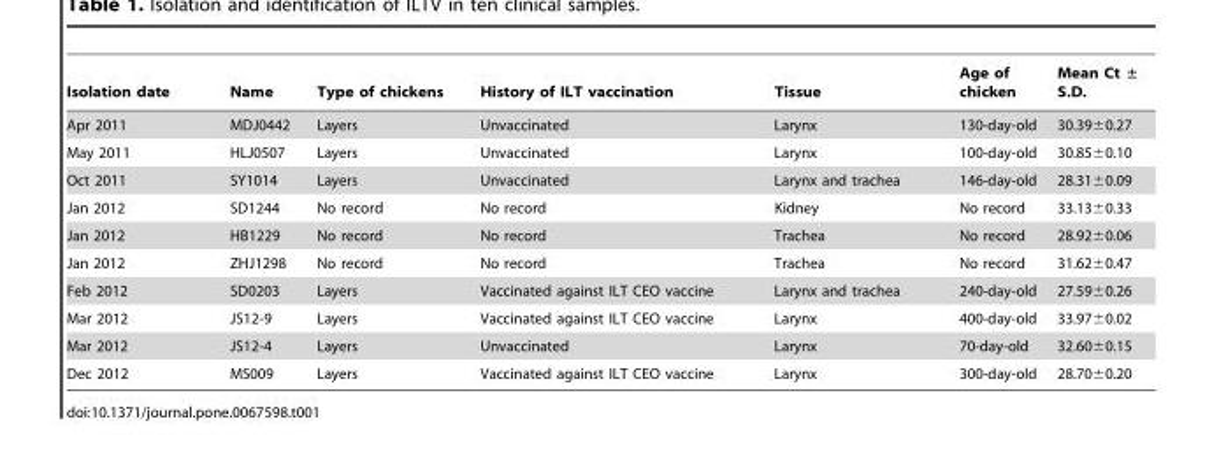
<table><thead><tr><td>Isolation date</td><td>Name</td><td>Type of chickens</td><td>History of ILT vaccination</td><td>Tissue</td><td>Age of chicken</td><td>Mean Ct ± S.D.</td></tr></thead><tbody><tr><td>Apr 2011</td><td>MDJ0442</td><td>Layers</td><td>Unvaccinated</td><td>Larynx</td><td>130-day-old</td><td>30.39±0.27</td></tr><tr><td>May 2011</td><td>HLJ0507</td><td>Layers</td><td>Unvaccinated</td><td>Larynx</td><td>100-day-old</td><td>30.85±0.10</td></tr><tr><td>Oct 2011</td><td>SY1014</td><td>Layers</td><td>Unvaccinated</td><td>Larynx and trachea</td><td>146-day-old</td><td>28.31±0.09</td></tr><tr><td>Jan 2012</td><td>SD1244</td><td>No record</td><td>No record</td><td>Kidney</td><td>No record</td><td>33.13±0.33</td></tr><tr><td>Jan 2012</td><td>HB1229</td><td>No record</td><td>No record</td><td>Trachea</td><td>No record</td><td>28.92±0.06</td></tr><tr><td>Jan 2012</td><td>ZHJ1298</td><td>No record</td><td>No record</td><td>Trachea</td><td>No record</td><td>31.62±0.47</td></tr><tr><td>Feb 2012</td><td>SD0203</td><td>Layers</td><td>Vaccinated against ILT CEO vaccine</td><td>Larynx and trachea</td><td>240-day-old</td><td>27.59±0.26</td></tr><tr><td>Mar 2012</td><td>JS12-9</td><td>Layers</td><td>Vaccinated against ILT CEO vaccine</td><td>Larynx</td><td>400-day-old</td><td>33.97±0.02</td></tr><tr><td>Mar 2012</td><td>JS12-4</td><td>Layers</td><td>Unvaccinated</td><td>Larynx</td><td>70-day-old</td><td>32.60±0.15</td></tr><tr><td>Dec 2012</td><td>MS009</td><td>Layers</td><td>Vaccinated against ILT CEO vaccine</td><td>Larynx</td><td>300-day-old</td><td>28.70±0.20</td></tr></tbody></table>